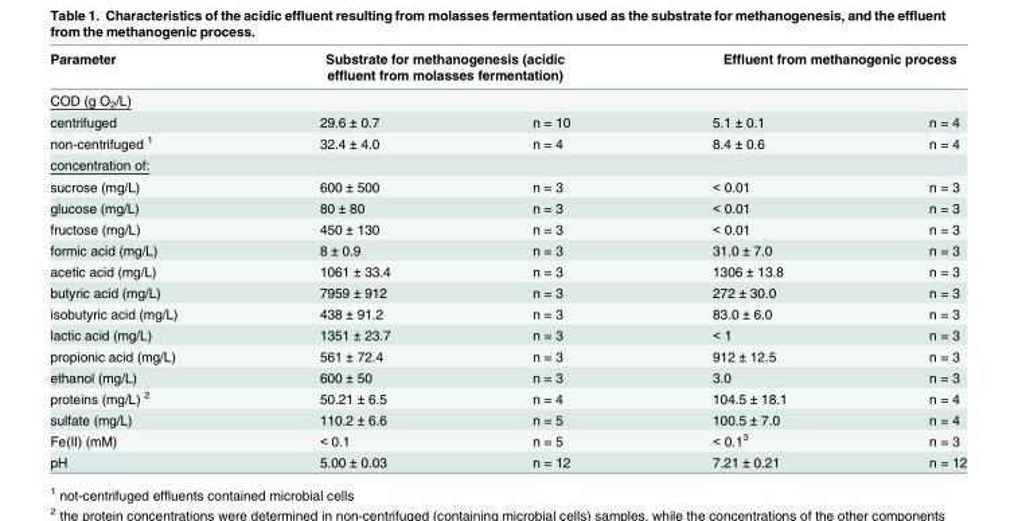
<table><thead><tr><td rowspan="2">Parameter COD (g O<sub>2</sub>/L)</td><td colspan="2">Substrate for methanogenesis (acidic effluent from molasses fermentation)</td><td colspan="2">Effluent from methanogenic process</td></tr><tr><td></td><td></td><td></td><td></td></tr></thead><tbody><tr><td>centrifuged</td><td>29.6 ± 0.7</td><td>n = 10</td><td>5.1 ± 0.1</td><td>n = 4</td></tr><tr><td>non-centrifuged <sup>1</sup></td><td>32.4 ± 4.0</td><td>n = 4</td><td>8.4 ± 0.6</td><td>n = 4</td></tr><tr><td colspan="5">concentration of:</td></tr><tr><td>sucrose (mg/L)</td><td>600 ± 500</td><td>n = 3</td><td>&lt; 0.01</td><td>n = 3</td></tr><tr><td>glucose (mg/L)</td><td>80 ± 80</td><td>n = 3</td><td>&lt; 0.01</td><td>n = 3</td></tr><tr><td>fructose (mg/L)</td><td>450 ± 130</td><td>n = 3</td><td>&lt; 0.01</td><td>n = 3</td></tr><tr><td>formic acid (mg/L)</td><td>8 ± 0.9</td><td>n = 3</td><td>31.0 ± 7.0</td><td>n = 3</td></tr><tr><td>acetic acid (mg/L)</td><td>1061 ± 33.4</td><td>n = 3</td><td>1306 ± 13.8</td><td>n = 3</td></tr><tr><td>butyric acid (mg/L)</td><td>7959 ± 912</td><td>n = 3</td><td>272 ± 30.0</td><td>n = 3</td></tr><tr><td>isobutyric acid (mg/L)</td><td>438 ± 91.2</td><td>n = 3</td><td>83.0 ± 6.0</td><td>n = 3</td></tr><tr><td>lactic acid (mg/L)</td><td>1351 ± 23.7</td><td>n = 3</td><td>&lt; 1</td><td>n = 3</td></tr><tr><td>propionic acid (mg/L)</td><td>561 ± 72.4</td><td>n = 3</td><td>912 ± 12.5</td><td>n = 3</td></tr><tr><td>ethanol (mg/L)</td><td>600 ± 50</td><td>n = 3</td><td>3.0</td><td>n = 3</td></tr><tr><td>proteins (mg/L) <sup>2</sup></td><td>50.21 ± 6.5</td><td>n = 4</td><td>104.5 ± 18.1</td><td>n = 4</td></tr><tr><td>sulfate (mg/L)</td><td>110.2 ± 6.6</td><td>n = 5</td><td>100.5 ± 7.0</td><td>n = 4</td></tr><tr><td>Fe(II) (mM)</td><td>&lt; 0.1</td><td>n = 5</td><td>&lt; 0.1<sup>3</sup></td><td>n = 3</td></tr><tr><td>pH</td><td>5.00 ± 0.03</td><td>n = 12</td><td>7.21 ± 0.21</td><td>n = 12</td></tr></tbody></table>